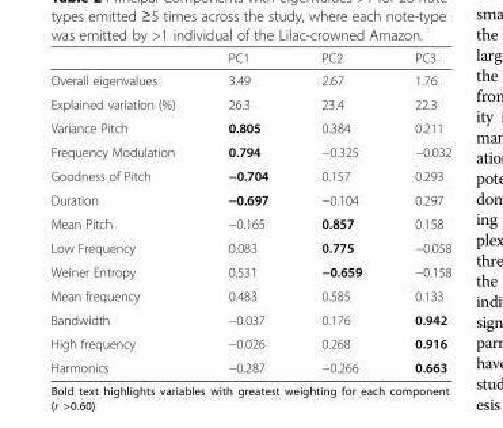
<table><thead><tr><td></td><td>PC1</td><td>PC2</td><td>PC3</td></tr></thead><tbody><tr><td>Overall eigenvalues</td><td>3.49</td><td>2.67</td><td>1.76</td></tr><tr><td>Explained variation (%)</td><td>26.3</td><td>23.4</td><td>22.3</td></tr><tr><td>Variance Pitch</td><td>0.805</td><td>0.384</td><td>0.211</td></tr><tr><td>Frequency Modulation</td><td>0.794</td><td>−0.325</td><td>−0.032</td></tr><tr><td>Goodness of Pitch</td><td>−0.704</td><td>0.157</td><td>0.293</td></tr><tr><td>Duration</td><td>−0.697</td><td>−0.104</td><td>0.297</td></tr><tr><td>Mean Pitch</td><td>−0.165</td><td>0.857</td><td>0.158</td></tr><tr><td>Low Frequency</td><td>0.083</td><td>0.775</td><td>−0.058</td></tr><tr><td>Weiner Entropy</td><td>0.531</td><td>−0.659</td><td>−0.158</td></tr><tr><td>Mean frequency</td><td>0.483</td><td>0.585</td><td>0.133</td></tr><tr><td>Bandwidth</td><td>−0.037</td><td>0.176</td><td>0.942</td></tr><tr><td>High frequency</td><td>−0.026</td><td>0.268</td><td>0.916</td></tr><tr><td>Harmonics</td><td>−0.287</td><td>−0.266</td><td>0.663</td></tr></tbody></table>